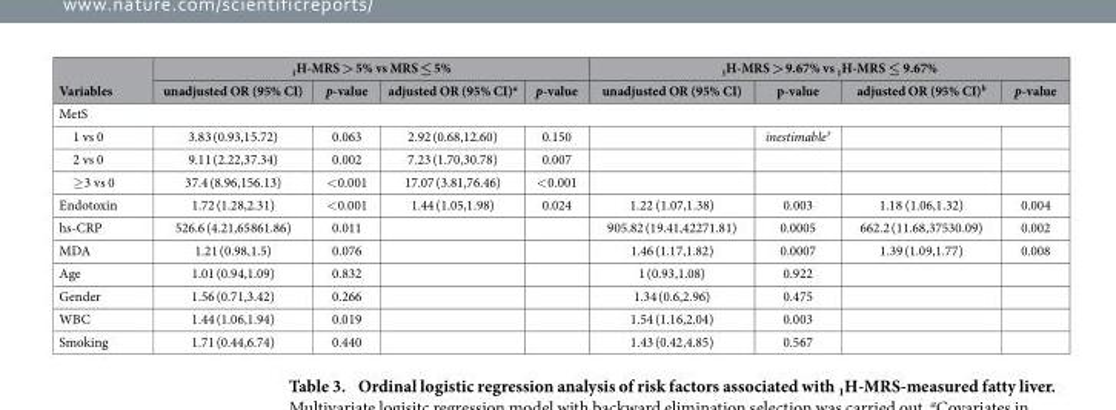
<table><thead><tr><td rowspan="2">Variables</td><td colspan="4"><sub>1</sub>H-MRS &gt; 5% vs MRS ≤ 5%</td><td colspan="4"><sub>1</sub>H-MRS &gt; 9.67% vs <sub>1</sub>H-MRS ≤ 9.67%</td></tr><tr><td>unadjusted OR (95% CI)</td><td>p-value</td><td>adjusted OR (95% CI)<sup>a</sup></td><td>p-value</td><td>unadjusted OR (95% CI)</td><td>p-value</td><td>adjusted OR (95% CI)<sup>b</sup></td><td>p-value</td></tr></thead><tbody><tr><td colspan="9">MetS</td></tr><tr><td>1 vs 0</td><td>3.83 (0.93,15.72)</td><td>0.063</td><td>2.92 (0.68,12.60)</td><td>0.150</td><td></td><td>inestimable†</td><td></td><td></td></tr><tr><td>2 vs 0</td><td>9.11 (2.22,37.34)</td><td>0.002</td><td>7.23 (1.70,30.78)</td><td>0.007</td><td></td><td></td><td></td><td></td></tr><tr><td>≥ 3 vs 0</td><td>37.4 (8.96,156.13)</td><td>&lt; 0.001</td><td>17.07 (3.81,76.46)</td><td>&lt; 0.001</td><td></td><td></td><td></td><td></td></tr><tr><td>Endotoxin</td><td>1.72 (1.28,2.31)</td><td>&lt; 0.001</td><td>1.44 (1.05,1.98)</td><td>0.024</td><td>1.22 (1.07,1.38)</td><td>0.003</td><td>1.18 (1.06,1.32)</td><td>0.004</td></tr><tr><td>hs-CRP</td><td>526.6 (4.21,65861.86)</td><td>0.011</td><td></td><td></td><td>905.82 (19.41,42271.81)</td><td>0.0005</td><td>662.2 (11.68,37530.09)</td><td>0.002</td></tr><tr><td>MDA</td><td>1.21 (0.98,1.5)</td><td>0.076</td><td></td><td></td><td>1.46 (1.17,1.82)</td><td>0.0007</td><td>1.39 (1.09,1.77)</td><td>0.008</td></tr><tr><td>Age</td><td>1.01 (0.94,1.09)</td><td>0.832</td><td></td><td></td><td>1 (0.93,1.08)</td><td>0.922</td><td></td><td></td></tr><tr><td>Gender</td><td>1.56 (0.71,3.42)</td><td>0.266</td><td></td><td></td><td>1.34 (0.6,2.96)</td><td>0.475</td><td></td><td></td></tr><tr><td>WBC</td><td>1.44 (1.06,1.94)</td><td>0.019</td><td></td><td></td><td>1.54 (1.16,2.04)</td><td>0.003</td><td></td><td></td></tr><tr><td>Smoking</td><td>1.71 (0.44,6.74)</td><td>0.440</td><td></td><td></td><td>1.43 (0.42,4.85)</td><td>0.567</td><td></td><td></td></tr></tbody></table>